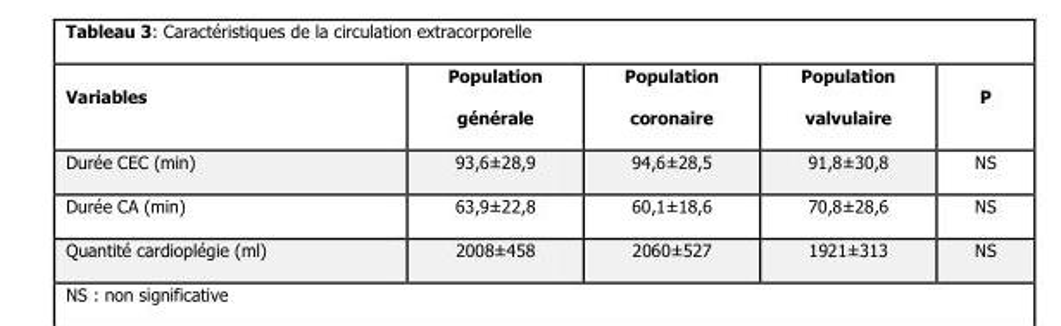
<table><thead><tr><td>Variables</td><td>Population générale</td><td>Population coronaire</td><td>Population valvulaire</td><td>P</td></tr></thead><tbody><tr><td>Durée CEC (min)</td><td>93,6±28,9</td><td>94,6±28,5</td><td>91,8±30,8</td><td>NS</td></tr><tr><td>Durée CA (min)</td><td>63,9±22,8</td><td>60,1±18,6</td><td>70,8±28,6</td><td>NS</td></tr><tr><td>Quantité cardioplégie (ml)</td><td>2008±458</td><td>2060±527</td><td>1921±313</td><td>NS</td></tr></tbody></table>